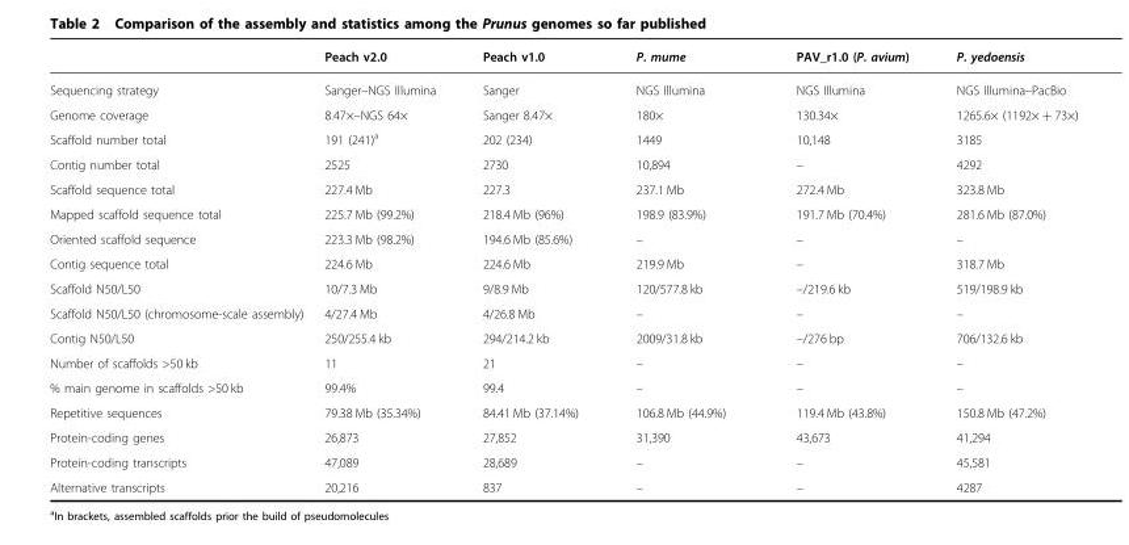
<table><thead><tr><td></td><td>Peach v2.0</td><td>Peach v1.0</td><td>P. mume</td><td>PAV_r1.0 (P. avium)</td><td>P. yedoensis</td></tr></thead><tbody><tr><td>Sequencing strategy</td><td>Sanger–NGS Illumina</td><td>Sanger</td><td>NGS Illumina</td><td>NGS Illumina</td><td>NGS Illumina–PacBio</td></tr><tr><td>Genome coverage</td><td>8.47×–NGS 64×</td><td>Sanger 8.47×</td><td>180×</td><td>130.34×</td><td>1265.6× (1192× + 73×)</td></tr><tr><td>Scaffold number total</td><td>191 (241)<sup>a</sup></td><td>202 (234)</td><td>1449</td><td>10,148</td><td>3185</td></tr><tr><td>Contig number total</td><td>2525</td><td>2730</td><td>10,894</td><td>–</td><td>4292</td></tr><tr><td>Scaffold sequence total</td><td>227.4 Mb</td><td>227.3</td><td>237.1 Mb</td><td>272.4 Mb</td><td>323.8 Mb</td></tr><tr><td>Mapped scaffold sequence total</td><td>225.7 Mb (99.2%)</td><td>218.4 Mb (96%)</td><td>198.9 (83.9%)</td><td>191.7 Mb (70.4%)</td><td>281.6 Mb (87.0%)</td></tr><tr><td>Oriented scaffold sequence</td><td>223.3 Mb (98.2%)</td><td>194.6 Mb (85.6%)</td><td>–</td><td>–</td><td>–</td></tr><tr><td>Contig sequence total</td><td>224.6 Mb</td><td>224.6 Mb</td><td>219.9 Mb</td><td>–</td><td>318.7 Mb</td></tr><tr><td>Scaffold N50/L50</td><td>10/7.3 Mb</td><td>9/8.9 Mb</td><td>120/577.8 kb</td><td>–/219.6 kb</td><td>519/198.9 kb</td></tr><tr><td>Scaffold N50/L50 (chromosome-scale assembly)</td><td>4/27.4 Mb</td><td>4/26.8 Mb</td><td>–</td><td>–</td><td>–</td></tr><tr><td>Contig N50/L50</td><td>250/255.4 kb</td><td>294/214.2 kb</td><td>2009/31.8 kb</td><td>–/276 bp</td><td>706/132.6 kb</td></tr><tr><td>Number of scaffolds &gt;50 kb</td><td>11</td><td>21</td><td>–</td><td>–</td><td>–</td></tr><tr><td>% main genome in scaffolds &gt;50 kb</td><td>99.4%</td><td>99.4</td><td>–</td><td>–</td><td>–</td></tr><tr><td>Repetitive sequences</td><td>79.38 Mb (35.34%)</td><td>84.41 Mb (37.14%)</td><td>106.8 Mb (44.9%)</td><td>119.4 Mb (43.8%)</td><td>150.8 Mb (47.2%)</td></tr><tr><td>Protein-coding genes</td><td>26,873</td><td>27,852</td><td>31,390</td><td>43,673</td><td>41,294</td></tr><tr><td>Protein-coding transcripts</td><td>47,089</td><td>28,689</td><td>–</td><td>–</td><td>45,581</td></tr><tr><td>Alternative transcripts</td><td>20,216</td><td>837</td><td>–</td><td>–</td><td>4287</td></tr></tbody></table>